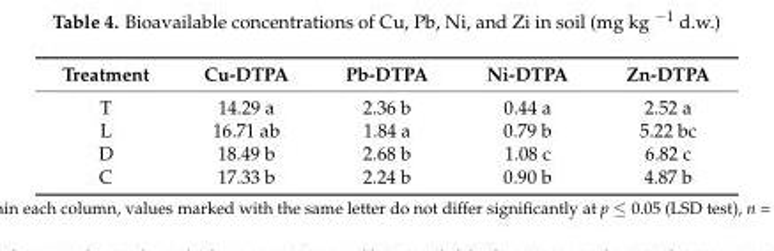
<table><thead><tr><td>Treatment</td><td>Cu-DTPA</td><td>Pb-DTPA</td><td>Ni-DTPA</td><td>Zn-DTPA</td></tr></thead><tbody><tr><td>T</td><td>14.29 a</td><td>2.36 b</td><td>0.44 a</td><td>2.52 a</td></tr><tr><td>L</td><td>16.71 ab</td><td>1.84 a</td><td>0.79 b</td><td>5.22 bc</td></tr><tr><td>D</td><td>18.49 b</td><td>2.68 b</td><td>1.08 c</td><td>6.82 c</td></tr><tr><td>C</td><td>17.33 b</td><td>2.24 b</td><td>0.90 b</td><td>4.87 b</td></tr></tbody></table>